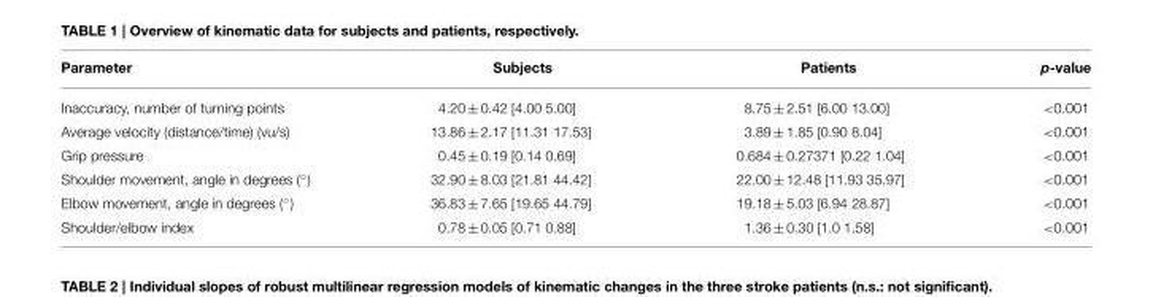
<table><thead><tr><td>Parameter</td><td>Subjects</td><td>Patients</td><td>p-value</td></tr></thead><tbody><tr><td>Inaccuracy, number of turning points</td><td>4.20 ± 0.42 [4.00 5.00]</td><td>8.75 ± 2.51 [6.00 13.00]</td><td>&lt;0.001</td></tr><tr><td>Average velocity (distance/time) (vu/s)</td><td>13.86 ± 2.17 [11.31 17.53]</td><td>3.89 ± 1.85 [0.90 8.04]</td><td>&lt;0.001</td></tr><tr><td>Grip pressure</td><td>0.45 ± 0.19 [0.14 0.69]</td><td>0.684 ± 0.27371 [0.22 1.04]</td><td>&lt;0.001</td></tr><tr><td>Shoulder movement, angle in degrees (◦)</td><td>32.90 ± 8.03 [21.81 44.42]</td><td>22.00 ± 12.48 [11.93 35.97]</td><td>&lt;0.001</td></tr><tr><td>Elbow movement, angle in degrees (◦)</td><td>36.83 ± 7.65 [19.65 44.79]</td><td>19.18 ± 5.03 [6.94 28.87]</td><td>&lt;0.001</td></tr><tr><td>Shoulder/elbow index</td><td>0.78 ± 0.05 [0.71 0.88]</td><td>1.36 ± 0.30 [1.0 1.58]</td><td>&lt;0.001</td></tr></tbody></table>